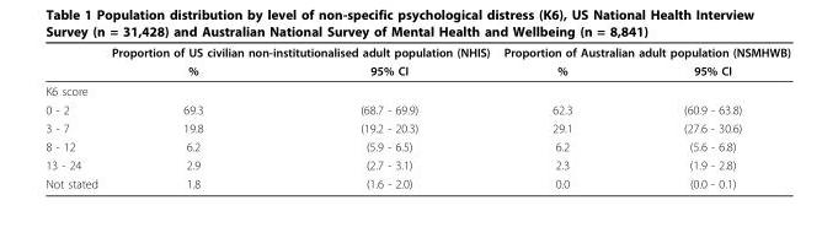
<table><thead><tr><td rowspan="2"></td><td colspan="2">Proportion of US civilian non-institutionalised adult population (NHIS)</td><td colspan="2">Proportion of Australian adult population (NSMHWB)</td></tr><tr><td>%</td><td>95% CI</td><td>%</td><td>95% CI</td></tr></thead><tbody><tr><td colspan="5">K6 score</td></tr><tr><td>0 - 2</td><td>69.3</td><td>(68.7 - 69.9)</td><td>62.3</td><td>(60.9 - 63.8)</td></tr><tr><td>3 - 7</td><td>19.8</td><td>(19.2 - 20.3)</td><td>29.1</td><td>(27.6 - 30.6)</td></tr><tr><td>8 - 12</td><td>6.2</td><td>(5.9 - 6.5)</td><td>6.2</td><td>(5.6 - 6.8)</td></tr><tr><td>13 - 24</td><td>2.9</td><td>(2.7 - 3.1)</td><td>2.3</td><td>(1.9 - 2.8)</td></tr><tr><td>Not stated</td><td>1.8</td><td>(1.6 - 2.0)</td><td>0.0</td><td>(0.0 - 0.1)</td></tr></tbody></table>